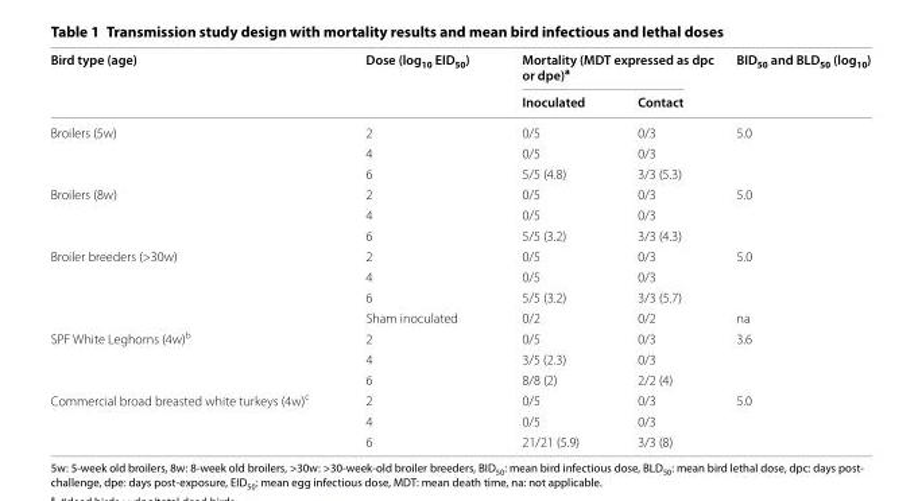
<table><thead><tr><td rowspan="2">Bird type (age)</td><td rowspan="2">Dose (log<sub>10</sub> EID<sub>50</sub>)</td><td colspan="2">Mortality (MDT expressed as dpc or dpe)<sup>a</sup></td><td rowspan="2">BID<sub>50</sub> and BLD<sub>50</sub> (log<sub>10</sub>)</td></tr><tr><td>Inoculated</td><td>Contact</td></tr></thead><tbody><tr><td rowspan="3">Broilers (5w)</td><td>2</td><td>0/5</td><td>0/3</td><td>5.0</td></tr><tr><td>4</td><td>0/5</td><td>0/3</td><td></td></tr><tr><td>6</td><td>5/5 (4.8)</td><td>3/3 (5.3)</td><td></td></tr><tr><td rowspan="3">Broilers (8w)</td><td>2</td><td>0/5</td><td>0/3</td><td>5.0</td></tr><tr><td>4</td><td>0/5</td><td>0/3</td><td></td></tr><tr><td>6</td><td>5/5 (3.2)</td><td>3/3 (4.3)</td><td></td></tr><tr><td rowspan="4">Broiler breeders (&gt;30w)</td><td>2</td><td>0/5</td><td>0/3</td><td>5.0</td></tr><tr><td>4</td><td>0/5</td><td>0/3</td><td></td></tr><tr><td>6</td><td>5/5 (3.2)</td><td>3/3 (5.7)</td><td></td></tr><tr><td>Sham inoculated</td><td>0/2</td><td>0/2</td><td>na</td></tr><tr><td rowspan="3">SPF White Leghorns (4w)<sup>b</sup></td><td>2</td><td>0/5</td><td>0/3</td><td>3.6</td></tr><tr><td>4</td><td>3/5 (2.3)</td><td>0/3</td><td></td></tr><tr><td>6</td><td>8/8 (2)</td><td>2/2 (4)</td><td></td></tr><tr><td rowspan="3">Commercial broad breasted white turkeys (4w)<sup>c</sup></td><td>2</td><td>0/5</td><td>0/3</td><td>5.0</td></tr><tr><td>4</td><td>0/5</td><td>0/3</td><td></td></tr><tr><td>6</td><td>21/21 (5.9)</td><td>3/3 (8)</td><td></td></tr></tbody></table>